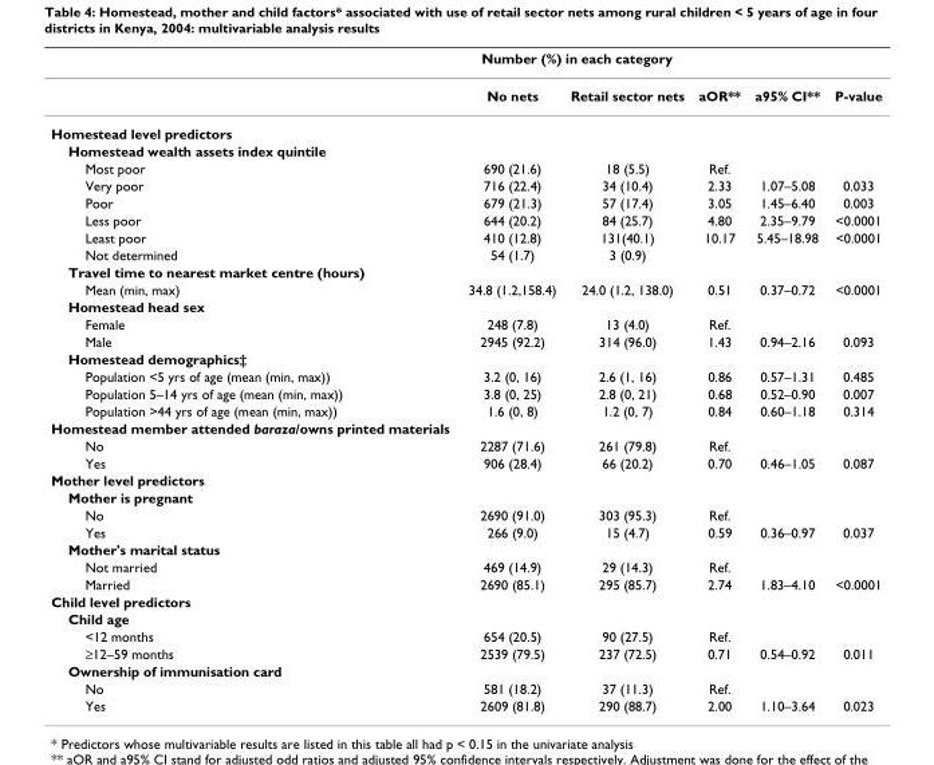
<table><thead><tr><td rowspan="2"></td><td colspan="2">Number (%) in each category</td><td rowspan="2">aOR**</td><td rowspan="2">a95% CI**</td><td rowspan="2">P-value</td></tr><tr><td>No nets</td><td>Retail sector nets</td></tr></thead><tbody><tr><td colspan="6">Homestead level predictors</td></tr><tr><td colspan="6">Homestead wealth assets index quintile</td></tr><tr><td>Most poor</td><td>690 (21.6)</td><td>18 (5.5)</td><td>Ref.</td><td></td><td></td></tr><tr><td>Very poor</td><td>716 (22.4)</td><td>34 (10.4)</td><td>2.33</td><td>1.07–5.08</td><td>0.033</td></tr><tr><td>Poor</td><td>679 (21.3)</td><td>57 (17.4)</td><td>3.05</td><td>1.45–6.40</td><td>0.003</td></tr><tr><td>Less poor</td><td>644 (20.2)</td><td>84 (25.7)</td><td>4.80</td><td>2.35–9.79</td><td>&lt;0.0001</td></tr><tr><td>Least poor</td><td>410 (12.8)</td><td>131(40.1)</td><td>10.17</td><td>5.45–18.98</td><td>&lt;0.0001</td></tr><tr><td>Not determined</td><td>54 (1.7)</td><td>3 (0.9)</td><td></td><td></td><td></td></tr><tr><td colspan="6">Travel time to nearest market centre (hours)</td></tr><tr><td>Mean (min, max)</td><td>34.8 (1.2,158.4)</td><td>24.0 (1.2, 138.0)</td><td>0.51</td><td>0.37–0.72</td><td>&lt;0.0001</td></tr><tr><td colspan="6">Homestead head sex</td></tr><tr><td>Female</td><td>248 (7.8)</td><td>13 (4.0)</td><td>Ref.</td><td></td><td></td></tr><tr><td>Male</td><td>2945 (92.2)</td><td>314 (96.0)</td><td>1.43</td><td>0.94–2.16</td><td>0.093</td></tr><tr><td colspan="6">Homestead demographics‡</td></tr><tr><td>Population &lt;5 yrs of age (mean (min, max))</td><td>3.2 (0, 16)</td><td>2.6 (1, 16)</td><td>0.86</td><td>0.57–1.31</td><td>0.485</td></tr><tr><td>Population 5–14 yrs of age (mean (min, max))</td><td>3.8 (0, 25)</td><td>2.8 (0, 21)</td><td>0.68</td><td>0.52–0.90</td><td>0.007</td></tr><tr><td>Population &gt;44 yrs of age (mean (min, max))</td><td>1.6 (0, 8)</td><td>1.2 (0, 7)</td><td>0.84</td><td>0.60–1.18</td><td>0.314</td></tr><tr><td colspan="6">Homestead member attended baraza/owns printed materials</td></tr><tr><td>No</td><td>2287 (71.6)</td><td>261 (79.8)</td><td>Ref.</td><td></td><td></td></tr><tr><td>Yes</td><td>906 (28.4)</td><td>66 (20.2)</td><td>0.70</td><td>0.46–1.05</td><td>0.087</td></tr><tr><td colspan="6">Mother level predictors</td></tr><tr><td colspan="6">Mother is pregnant</td></tr><tr><td>No</td><td>2690 (91.0)</td><td>303 (95.3)</td><td>Ref.</td><td></td><td></td></tr><tr><td>Yes</td><td>266 (9.0)</td><td>15 (4.7)</td><td>0.59</td><td>0.36–0.97</td><td>0.037</td></tr><tr><td colspan="6">Mother&#x27;s marital status</td></tr><tr><td>Not married</td><td>469 (14.9)</td><td>29 (14.3)</td><td>Ref.</td><td></td><td></td></tr><tr><td>Married</td><td>2690 (85.1)</td><td>295 (85.7)</td><td>2.74</td><td>1.83–4.10</td><td>&lt;0.0001</td></tr><tr><td colspan="6">Child level predictors</td></tr><tr><td colspan="6">Child age</td></tr><tr><td>&lt;12 months</td><td>654 (20.5)</td><td>90 (27.5)</td><td>Ref.</td><td></td><td></td></tr><tr><td>≥12–59 months</td><td>2539 (79.5)</td><td>237 (72.5)</td><td>0.71</td><td>0.54–0.92</td><td>0.011</td></tr><tr><td colspan="6">Ownership of immunisation card</td></tr><tr><td>No</td><td>581 (18.2)</td><td>37 (11.3)</td><td>Ref.</td><td></td><td></td></tr><tr><td>Yes</td><td>2609 (81.8)</td><td>290 (88.7)</td><td>2.00</td><td>1.10–3.64</td><td>0.023</td></tr></tbody></table>